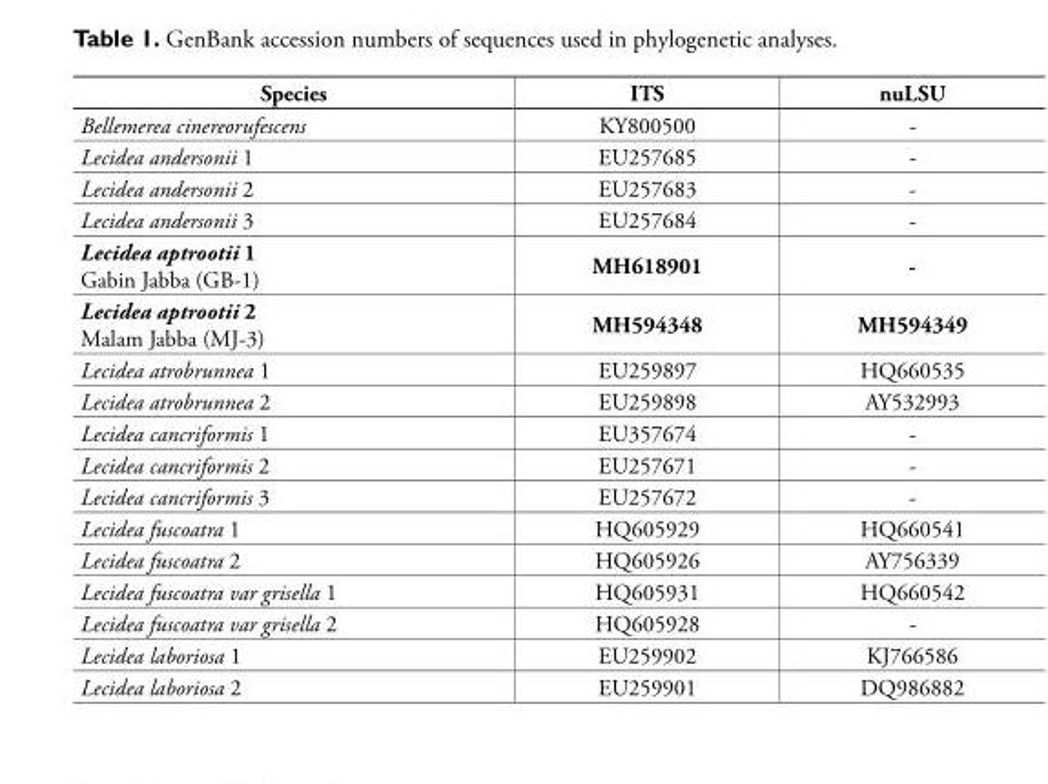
<table><thead><tr><td>Species</td><td>ITS</td><td>nuLSU</td></tr></thead><tbody><tr><td>Bellemerea cinereorufescens</td><td>KY800500</td><td>-</td></tr><tr><td>Lecidea andersonii 1</td><td>EU257685</td><td>-</td></tr><tr><td>Lecidea andersonii 2</td><td>EU257683</td><td>-</td></tr><tr><td>Lecidea andersonii 3</td><td>EU257684</td><td>-</td></tr><tr><td>Lecidea aptrootii 1 Gabin Jabba (GB-1)</td><td>MH618901</td><td>-</td></tr><tr><td>Lecidea aptrootii 2 Malam Jabba (MJ-3)</td><td>MH594348</td><td>MH594349</td></tr><tr><td>Lecidea atrobrunnea 1</td><td>EU259897</td><td>HQ660535</td></tr><tr><td>Lecidea atrobrunnea 2</td><td>EU259898</td><td>AY532993</td></tr><tr><td>Lecidea cancriformis 1</td><td>EU357674</td><td>-</td></tr><tr><td>Lecidea cancriformis 2</td><td>EU257671</td><td>-</td></tr><tr><td>Lecidea cancriformis 3</td><td>EU257672</td><td>-</td></tr><tr><td>Lecidea fuscoatra 1</td><td>HQ605929</td><td>HQ660541</td></tr><tr><td>Lecidea fuscoatra 2</td><td>HQ605926</td><td>AY756339</td></tr><tr><td>Lecidea fuscoatra var grisella 1</td><td>HQ605931</td><td>HQ660542</td></tr><tr><td>Lecidea fuscoatra var grisella 2</td><td>HQ605928</td><td>-</td></tr><tr><td>Lecidea laboriosa 1</td><td>EU259902</td><td>KJ766586</td></tr><tr><td>Lecidea laboriosa 2</td><td>EU259901</td><td>DQ986882</td></tr></tbody></table>